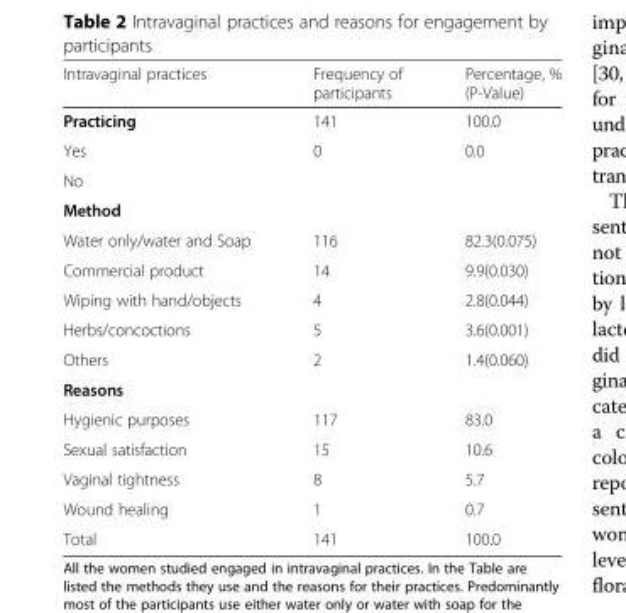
<table><thead><tr><td>Intravaginal practices</td><td>Frequency of participants</td><td>Percentage, % (P-Value)</td></tr></thead><tbody><tr><td>Practicing</td><td>141</td><td>100.0</td></tr><tr><td>Yes</td><td>0</td><td>0.0</td></tr><tr><td colspan="3">No</td></tr><tr><td colspan="3">Method</td></tr><tr><td>Water only/water and Soap</td><td>116</td><td>82.3(0.075)</td></tr><tr><td>Commercial product</td><td>14</td><td>9.9(0.030)</td></tr><tr><td>Wiping with hand/objects</td><td>4</td><td>2.8(0.044)</td></tr><tr><td>Herbs/concoctions</td><td>5</td><td>3.6(0.001)</td></tr><tr><td>Others</td><td>2</td><td>1.4(0.060)</td></tr><tr><td colspan="3">Reasons</td></tr><tr><td>Hygienic purposes</td><td>117</td><td>83.0</td></tr><tr><td>Sexual satisfaction</td><td>15</td><td>10.6</td></tr><tr><td>Vaginal tightness</td><td>8</td><td>5.7</td></tr><tr><td>Wound healing</td><td>1</td><td>0.7</td></tr><tr><td>Total</td><td>141</td><td>100.0</td></tr></tbody></table>